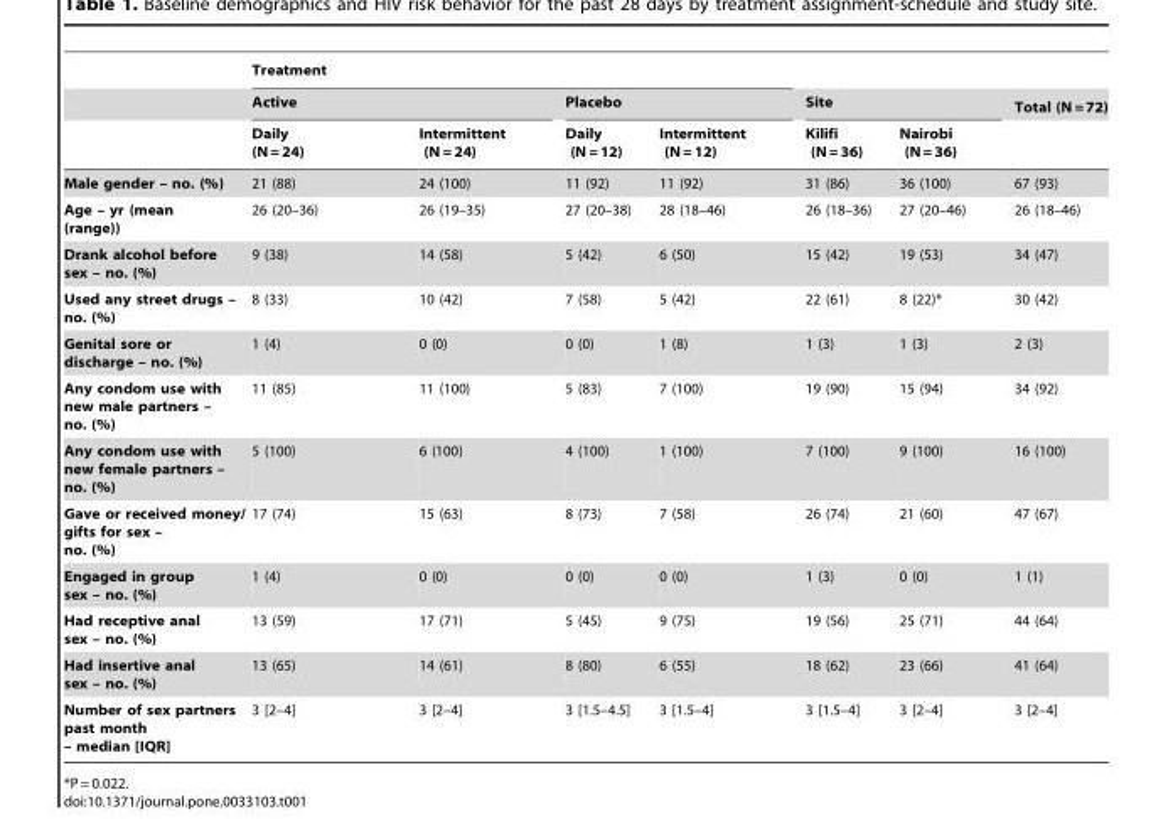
<table><thead><tr><td rowspan="3"></td><td colspan="4">Treatment</td><td></td><td></td><td rowspan="3">Total (N = 72)</td></tr><tr><td colspan="2">Active</td><td colspan="2">Placebo</td><td colspan="2">Site</td></tr><tr><td>Daily (N = 24)</td><td>Intermittent (N = 24)</td><td>Daily (N = 12)</td><td>Intermittent (N = 12)</td><td>Kilifi (N = 36)</td><td>Nairobi (N = 36)</td></tr></thead><tbody><tr><td>Male gender – no. (%)</td><td>21 (88)</td><td>24 (100)</td><td>11 (92)</td><td>11 (92)</td><td>31 (86)</td><td>36 (100)</td><td>67 (93)</td></tr><tr><td>Age – yr (mean (range))</td><td>26 (20–36)</td><td>26 (19–35)</td><td>27 (20–38)</td><td>28 (18–46)</td><td>26 (18–36)</td><td>27 (20–46)</td><td>26 (18–46)</td></tr><tr><td>Drank alcohol before sex – no. (%)</td><td>9 (38)</td><td>14 (58)</td><td>5 (42)</td><td>6 (50)</td><td>15 (42)</td><td>19 (53)</td><td>34 (47)</td></tr><tr><td>Used any street drugs – no. (%)</td><td>8 (33)</td><td>10 (42)</td><td>7 (58)</td><td>5 (42)</td><td>22 (61)</td><td>8 (22)*</td><td>30 (42)</td></tr><tr><td>Genital sore or discharge – no. (%)</td><td>1 (4)</td><td>0 (0)</td><td>0 (0)</td><td>1 (8)</td><td>1 (3)</td><td>1 (3)</td><td>2 (3)</td></tr><tr><td>Any condom use with new male partners – no. (%)</td><td>11 (85)</td><td>11 (100)</td><td>5 (83)</td><td>7 (100)</td><td>19 (90)</td><td>15 (94)</td><td>34 (92)</td></tr><tr><td>Any condom use with new female partners – no. (%)</td><td>5 (100)</td><td>6 (100)</td><td>4 (100)</td><td>1 (100)</td><td>7 (100)</td><td>9 (100)</td><td>16 (100)</td></tr><tr><td>Gave or received money/ gifts for sex – no. (%)</td><td>17 (74)</td><td>15 (63)</td><td>8 (73)</td><td>7 (58)</td><td>26 (74)</td><td>21 (60)</td><td>47 (67)</td></tr><tr><td>Engaged in group sex – no. (%)</td><td>1 (4)</td><td>0 (0)</td><td>0 (0)</td><td>0 (0)</td><td>1 (3)</td><td>0 (0)</td><td>1 (1)</td></tr><tr><td>Had receptive anal sex – no. (%)</td><td>13 (59)</td><td>17 (71)</td><td>5 (45)</td><td>9 (75)</td><td>19 (56)</td><td>25 (71)</td><td>44 (64)</td></tr><tr><td>Had insertive anal sex – no. (%)</td><td>13 (65)</td><td>14 (61)</td><td>8 (80)</td><td>6 (55)</td><td>18 (62)</td><td>23 (66)</td><td>41 (64)</td></tr><tr><td>Number of sex partners past month – median [IQR]</td><td>3 [2–4]</td><td>3 [2–4]</td><td>3 [1.5–4.5]</td><td>3 [1.5–4]</td><td>3 [1.5–4]</td><td>3 [2–4]</td><td>3 [2–4]</td></tr></tbody></table>